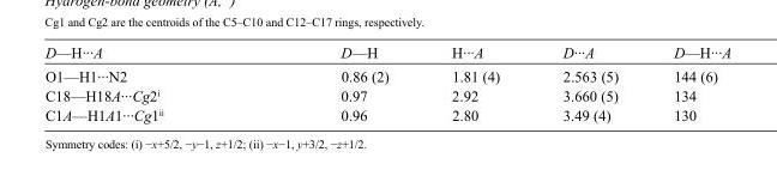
<table><tbody><tr><td>D—H···A</td><td>D—H</td><td>H···A</td><td>D···A</td><td>D—H···A</td></tr><tr><td>O1—H1···N2</td><td>0.86 (2)</td><td>1.81 (4)</td><td>2.563 (5)</td><td>144 (6)</td></tr><tr><td>C18—H18A···Cg2<sup>i</sup></td><td>0.97</td><td>2.92</td><td>3.660 (5)</td><td>134</td></tr><tr><td>C1A—H1A1···Cg1<sup>ii</sup></td><td>0.96</td><td>2.80</td><td>3.49 (4)</td><td>130</td></tr></tbody></table>